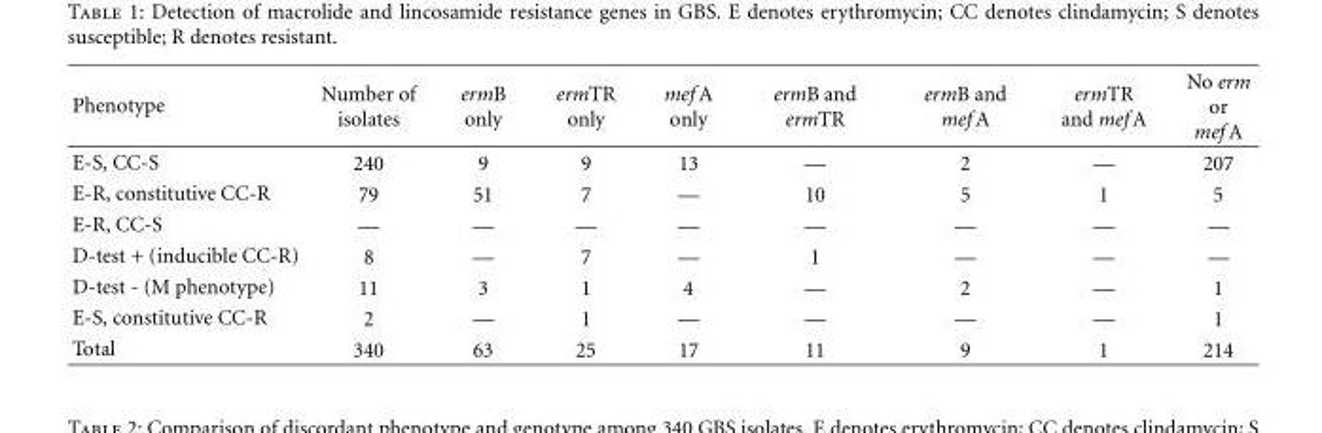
<table><tbody><tr><td>Phenotype</td><td>Number of isolates</td><td>ermB only</td><td>ermTR only</td><td>mef A only</td><td>ermB and ermTR</td><td>ermB and mef A</td><td>ermTR and mef A</td><td>No erm or mef A</td></tr><tr><td>E-S, CC-S</td><td>240</td><td>9</td><td>9</td><td>13</td><td>—</td><td>2</td><td>—</td><td>207</td></tr><tr><td>E-R, constitutive CC-R</td><td>79</td><td>51</td><td>7</td><td>—</td><td>10</td><td>5</td><td>1</td><td>5</td></tr><tr><td>E-R, CC-S</td><td>—</td><td>—</td><td>—</td><td>—</td><td>—</td><td>—</td><td>—</td><td>—</td></tr><tr><td>D-test + (inducible CC-R)</td><td>8</td><td>—</td><td>7</td><td>—</td><td>1</td><td>—</td><td>—</td><td>—</td></tr><tr><td>D-test - (M phenotype)</td><td>11</td><td>3</td><td>1</td><td>4</td><td>—</td><td>2</td><td>—</td><td>1</td></tr><tr><td>E-S, constitutive CC-R</td><td>2</td><td>—</td><td>1</td><td>—</td><td>—</td><td>—</td><td>—</td><td>1</td></tr><tr><td>Total</td><td>340</td><td>63</td><td>25</td><td>17</td><td>11</td><td>9</td><td>1</td><td>214</td></tr></tbody></table>